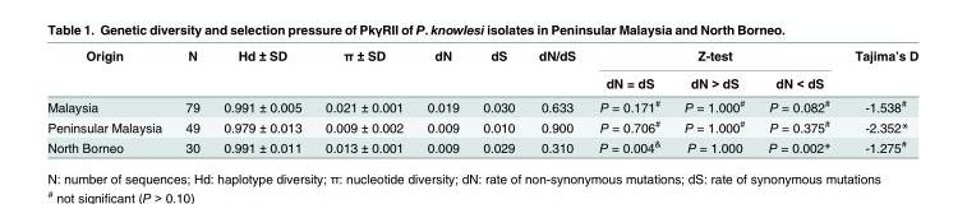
<table><thead><tr><td rowspan="2">Origin</td><td rowspan="2">N</td><td rowspan="2">Hd ± SD</td><td rowspan="2">π ± SD</td><td rowspan="2">dN</td><td rowspan="2">dS</td><td rowspan="2">dN/dS</td><td colspan="3">Z-test</td><td rowspan="2">Tajima’s D</td></tr><tr><td>dN = dS</td><td>dN &gt; dS</td><td>dN &lt; dS</td></tr></thead><tbody><tr><td>Malaysia</td><td>79</td><td>0.991 ± 0.005</td><td>0.021 ± 0.001</td><td>0.019</td><td>0.030</td><td>0.633</td><td>P = 0.171<sup>#</sup></td><td>P = 1.000<sup>#</sup></td><td>P = 0.082<sup>#</sup></td><td>-1.538<sup>#</sup></td></tr><tr><td>Peninsular Malaysia</td><td>49</td><td>0.979 ± 0.013</td><td>0.009 ± 0.002</td><td>0.009</td><td>0.010</td><td>0.900</td><td>P = 0.706<sup>#</sup></td><td>P = 1.000<sup>#</sup></td><td>P = 0.375<sup>#</sup></td><td>-2.352*</td></tr><tr><td>North Borneo</td><td>30</td><td>0.991 ± 0.011</td><td>0.013 ± 0.001</td><td>0.009</td><td>0.029</td><td>0.310</td><td>P = 0.004<sup>&amp;</sup></td><td>P = 1.000</td><td>P = 0.002*</td><td>-1.275<sup>#</sup></td></tr></tbody></table>